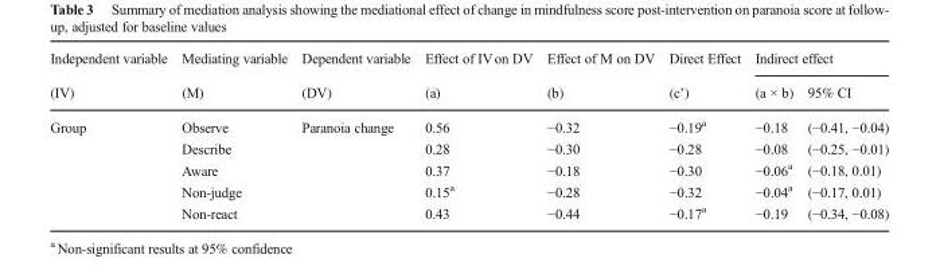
<table><thead><tr><td rowspan="2">Independent variable (IV)</td><td rowspan="2">Mediating variable (M)</td><td rowspan="2">Dependent variable (DV)</td><td rowspan="2">Effect of IVon DV (a)</td><td rowspan="2">Effect of M on DV (b)</td><td rowspan="2">Direct Effect (c’)</td><td colspan="2">Indirect effect</td></tr><tr><td>(a × b)</td><td>95% CI</td></tr></thead><tbody><tr><td rowspan="5">Group</td><td>Observe</td><td rowspan="5">Paranoia change</td><td>0.56</td><td>−0.32</td><td>−0.19<sup>a</sup></td><td>−0.18</td><td>(−0.41, −0.04)</td></tr><tr><td>Describe</td><td>0.28</td><td>−0.30</td><td>−0.28</td><td>−0.08</td><td>(−0.25, −0.01)</td></tr><tr><td>Aware</td><td>0.37</td><td>−0.18</td><td>−0.30</td><td>−0.06<sup>a</sup></td><td>(−0.18, 0.01)</td></tr><tr><td>Non-judge</td><td>0.15<sup>a</sup></td><td>−0.28</td><td>−0.32</td><td>−0.04<sup>a</sup></td><td>(−0.17, 0.01)</td></tr><tr><td>Non-react</td><td>0.43</td><td>−0.44</td><td>−0.17<sup>a</sup></td><td>−0.19</td><td>(−0.34, −0.08)</td></tr></tbody></table>